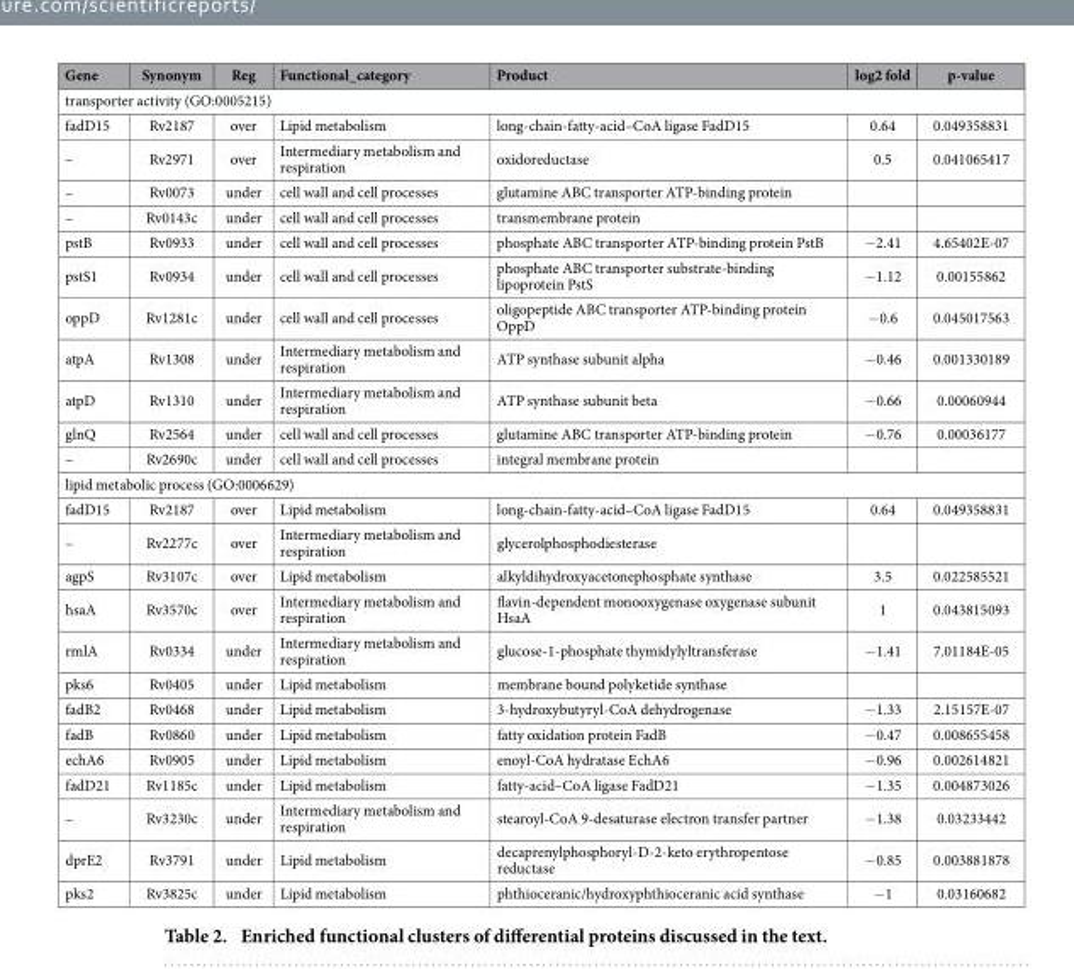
<table><thead><tr><td>Gene</td><td>Synonym</td><td>Reg</td><td>Functional_category</td><td>Product</td><td>log2 fold</td><td>p-value</td></tr></thead><tbody><tr><td colspan="7">transporter activity (GO:0005215)</td></tr><tr><td>fadD15</td><td>Rv2187</td><td>over</td><td>Lipid metabolism</td><td>long-chain-fatty-acid–CoA ligase FadD15</td><td>0.64</td><td>0.049358831</td></tr><tr><td>–</td><td>Rv2971</td><td>over</td><td>Intermediary metabolism and respiration</td><td>oxidoreductase</td><td>0.5</td><td>0.041065417</td></tr><tr><td>–</td><td>Rv0073</td><td>under</td><td>cell wall and cell processes</td><td>glutamine ABC transporter ATP-binding protein</td><td></td><td></td></tr><tr><td>–</td><td>Rv0143c</td><td>under</td><td>cell wall and cell processes</td><td>transmembrane protein</td><td></td><td></td></tr><tr><td>pstB</td><td>Rv0933</td><td>under</td><td>cell wall and cell processes</td><td>phosphate ABC transporter ATP-binding protein PstB</td><td>−2.41</td><td>4.65402E-07</td></tr><tr><td>pstS1</td><td>Rv0934</td><td>under</td><td>cell wall and cell processes</td><td>phosphate ABC transporter substrate-binding lipoprotein PstS</td><td>−1.12</td><td>0.00155862</td></tr><tr><td>oppD</td><td>Rv1281c</td><td>under</td><td>cell wall and cell processes</td><td>oligopeptide ABC transporter ATP-binding protein OppD</td><td>−0.6</td><td>0.045017563</td></tr><tr><td>atpA</td><td>Rv1308</td><td>under</td><td>Intermediary metabolism and respiration</td><td>ATP synthase subunit alpha</td><td>−0.46</td><td>0.001330189</td></tr><tr><td>atpD</td><td>Rv1310</td><td>under</td><td>Intermediary metabolism and respiration</td><td>ATP synthase subunit beta</td><td>−0.66</td><td>0.00060944</td></tr><tr><td>glnQ</td><td>Rv2564</td><td>under</td><td>cell wall and cell processes</td><td>glutamine ABC transporter ATP-binding protein</td><td>−0.76</td><td>0.00036177</td></tr><tr><td>–</td><td>Rv2690c</td><td>under</td><td>cell wall and cell processes</td><td>integral membrane protein</td><td></td><td></td></tr><tr><td colspan="7">lipid metabolic process (GO:0006629)</td></tr><tr><td>fadD15</td><td>Rv2187</td><td>over</td><td>Lipid metabolism</td><td>long-chain-fatty-acid–CoA ligase FadD15</td><td>0.64</td><td>0.049358831</td></tr><tr><td>–</td><td>Rv2277c</td><td>over</td><td>Intermediary metabolism and respiration</td><td>glycerolphosphodiesterase</td><td></td><td></td></tr><tr><td>agpS</td><td>Rv3107c</td><td>over</td><td>Lipid metabolism</td><td>alkyldihydroxyacetonephosphate synthase</td><td>3.5</td><td>0.022585521</td></tr><tr><td>hsaA</td><td>Rv3570c</td><td>over</td><td>Intermediary metabolism and respiration</td><td>flavin-dependent monooxygenase oxygenase subunit HsaA</td><td>1</td><td>0.043815093</td></tr><tr><td>rmlA</td><td>Rv0334</td><td>under</td><td>Intermediary metabolism and respiration</td><td>glucose-1-phosphate thymidylyltransferase</td><td>−1.41</td><td>7.01184E-05</td></tr><tr><td>pks6</td><td>Rv0405</td><td>under</td><td>Lipid metabolism</td><td>membrane bound polyketide synthase</td><td></td><td></td></tr><tr><td>fadB2</td><td>Rv0468</td><td>under</td><td>Lipid metabolism</td><td>3-hydroxybutyryl-CoA dehydrogenase</td><td>−1.33</td><td>2.15157E-07</td></tr><tr><td>fadB</td><td>Rv0860</td><td>under</td><td>Lipid metabolism</td><td>fatty oxidation protein FadB</td><td>−0.47</td><td>0.008655458</td></tr><tr><td>echA6</td><td>Rv0905</td><td>under</td><td>Lipid metabolism</td><td>enoyl-CoA hydratase EchA6</td><td>−0.96</td><td>0.002614821</td></tr><tr><td>fadD21</td><td>Rv1185c</td><td>under</td><td>Lipid metabolism</td><td>fatty-acid–CoA ligase FadD21</td><td>−1.35</td><td>0.004873026</td></tr><tr><td>–</td><td>Rv3230c</td><td>under</td><td>Intermediary metabolism and respiration</td><td>stearoyl-CoA 9-desaturase electron transfer partner</td><td>−1.38</td><td>0.03233442</td></tr><tr><td>dprE2</td><td>Rv3791</td><td>under</td><td>Lipid metabolism</td><td>decaprenylphosphoryl-D-2-keto erythropentose reductase</td><td>−0.85</td><td>0.003881878</td></tr><tr><td>pks2</td><td>Rv3825c</td><td>under</td><td>Lipid metabolism</td><td>phthioceranic/hydroxyphthioceranic acid synthase</td><td>−1</td><td>0.03160682</td></tr></tbody></table>